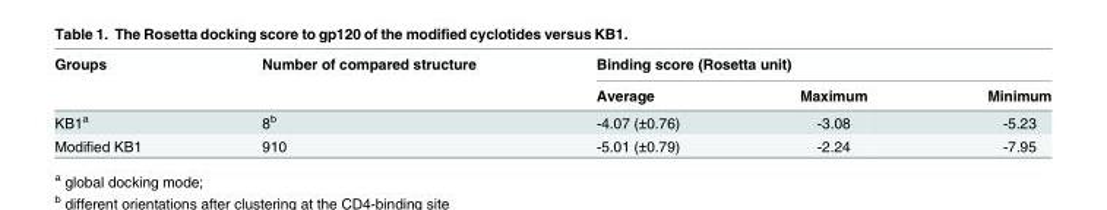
<table><thead><tr><td rowspan="2">Groups</td><td rowspan="2">Number of compared structure</td><td colspan="3">Binding score (Rosetta unit)</td></tr><tr><td>Average</td><td>Maximum</td><td>Minimum</td></tr></thead><tbody><tr><td>KB1<sup>a</sup></td><td>8<sup>b</sup></td><td>-4.07 (±0.76)</td><td>-3.08</td><td>-5.23</td></tr><tr><td>Modified KB1</td><td>910</td><td>-5.01 (±0.79)</td><td>-2.24</td><td>-7.95</td></tr></tbody></table>